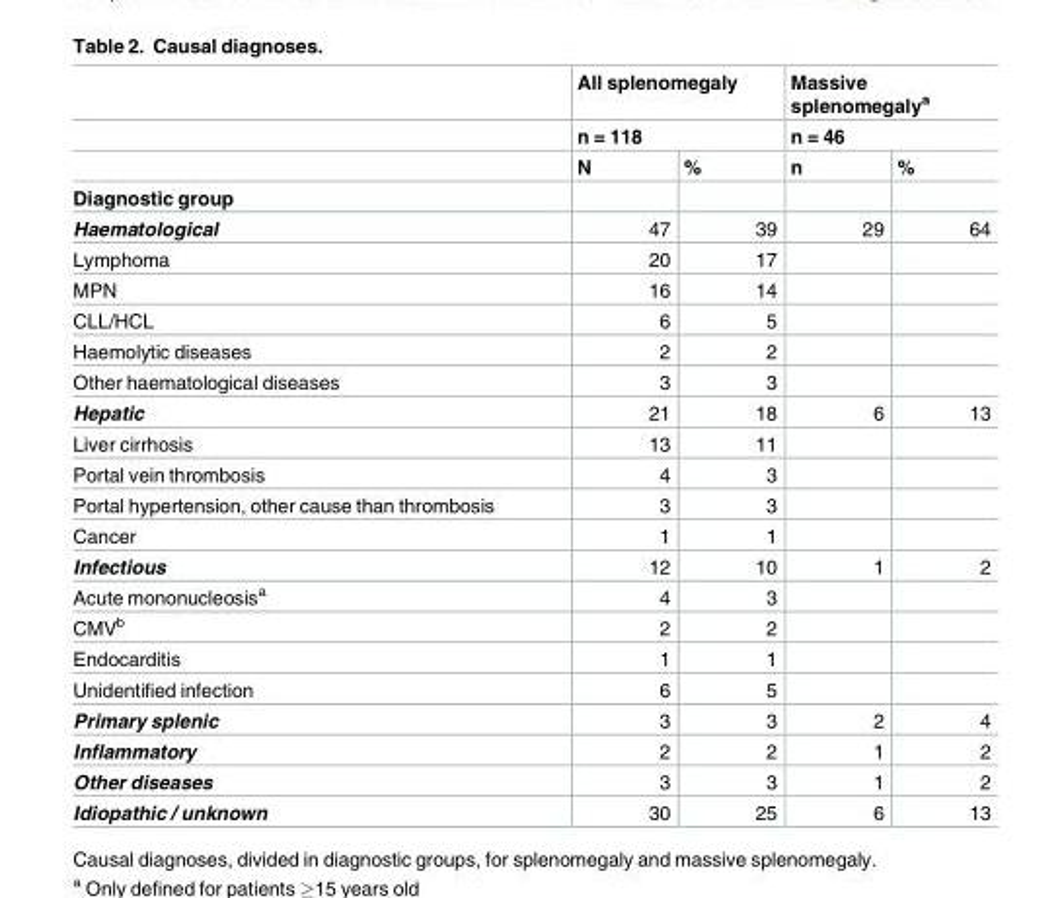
<table><thead><tr><td rowspan="3"></td><td rowspan="2" colspan="2">All splenomegaly n = 118</td><td rowspan="2" colspan="2">Massive splenomegaly<sup>a</sup> n = 46</td></tr><tr></tr><tr><td>N</td><td>%</td><td>n</td><td>%</td></tr></thead><tbody><tr><td colspan="5">Diagnostic group</td></tr><tr><td>Haematological</td><td>47</td><td>39</td><td>29</td><td>64</td></tr><tr><td>Lymphoma</td><td>20</td><td>17</td><td></td><td></td></tr><tr><td>MPN</td><td>16</td><td>14</td><td></td><td></td></tr><tr><td>CLL/HCL</td><td>6</td><td>5</td><td></td><td></td></tr><tr><td>Haemolytic diseases</td><td>2</td><td>2</td><td></td><td></td></tr><tr><td>Other haematological diseases</td><td>3</td><td>3</td><td></td><td></td></tr><tr><td>Hepatic</td><td>21</td><td>18</td><td>6</td><td>13</td></tr><tr><td>Liver cirrhosis</td><td>13</td><td>11</td><td></td><td></td></tr><tr><td>Portal vein thrombosis</td><td>4</td><td>3</td><td></td><td></td></tr><tr><td>Portal hypertension, other cause than thrombosis</td><td>3</td><td>3</td><td></td><td></td></tr><tr><td>Cancer</td><td>1</td><td>1</td><td></td><td></td></tr><tr><td>Infectious</td><td>12</td><td>10</td><td>1</td><td>2</td></tr><tr><td>Acute mononucleosis<sup>a</sup></td><td>4</td><td>3</td><td></td><td></td></tr><tr><td>CMV<sup>b</sup></td><td>2</td><td>2</td><td></td><td></td></tr><tr><td>Endocarditis</td><td>1</td><td>1</td><td></td><td></td></tr><tr><td>Unidentified infection</td><td>6</td><td>5</td><td></td><td></td></tr><tr><td>Primary splenic</td><td>3</td><td>3</td><td>2</td><td>4</td></tr><tr><td>Inflammatory</td><td>2</td><td>2</td><td>1</td><td>2</td></tr><tr><td>Other diseases</td><td>3</td><td>3</td><td>1</td><td>2</td></tr><tr><td>Idiopathic / unknown</td><td>30</td><td>25</td><td>6</td><td>13</td></tr></tbody></table>